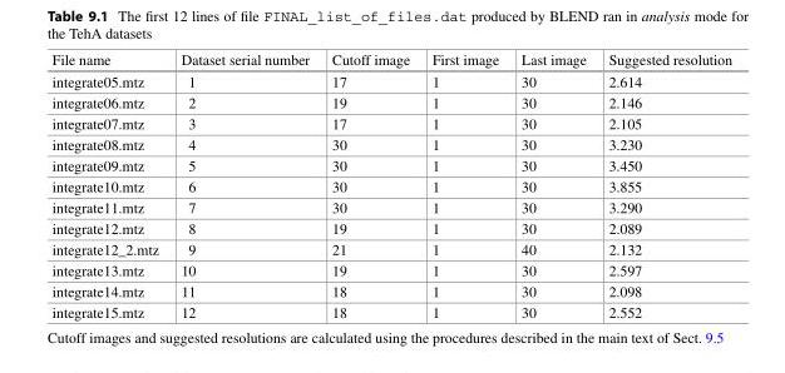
<table><thead><tr><td>File name</td><td>Dataset serial number</td><td>Cutoff image</td><td>First image</td><td>Last image</td><td>Suggested resolution</td></tr></thead><tbody><tr><td>integrate05.mtz</td><td>1</td><td>17</td><td>1</td><td>30</td><td>2.614</td></tr><tr><td>integrate06.mtz</td><td>2</td><td>19</td><td>1</td><td>30</td><td>2.146</td></tr><tr><td>integrate07.mtz</td><td>3</td><td>17</td><td>1</td><td>30</td><td>2.105</td></tr><tr><td>integrate08.mtz</td><td>4</td><td>30</td><td>1</td><td>30</td><td>3.230</td></tr><tr><td>integrate09.mtz</td><td>5</td><td>30</td><td>1</td><td>30</td><td>3.450</td></tr><tr><td>integrate10.mtz</td><td>6</td><td>30</td><td>1</td><td>30</td><td>3.855</td></tr><tr><td>integrate11.mtz</td><td>7</td><td>30</td><td>1</td><td>30</td><td>3.290</td></tr><tr><td>integrate12.mtz</td><td>8</td><td>19</td><td>1</td><td>30</td><td>2.089</td></tr><tr><td>integrate12_2.mtz</td><td>9</td><td>21</td><td>1</td><td>40</td><td>2.132</td></tr><tr><td>integrate13.mtz</td><td>10</td><td>19</td><td>1</td><td>30</td><td>2.597</td></tr><tr><td>integrate14.mtz</td><td>11</td><td>18</td><td>1</td><td>30</td><td>2.098</td></tr><tr><td>integrate15.mtz</td><td>12</td><td>18</td><td>1</td><td>30</td><td>2.552</td></tr></tbody></table>